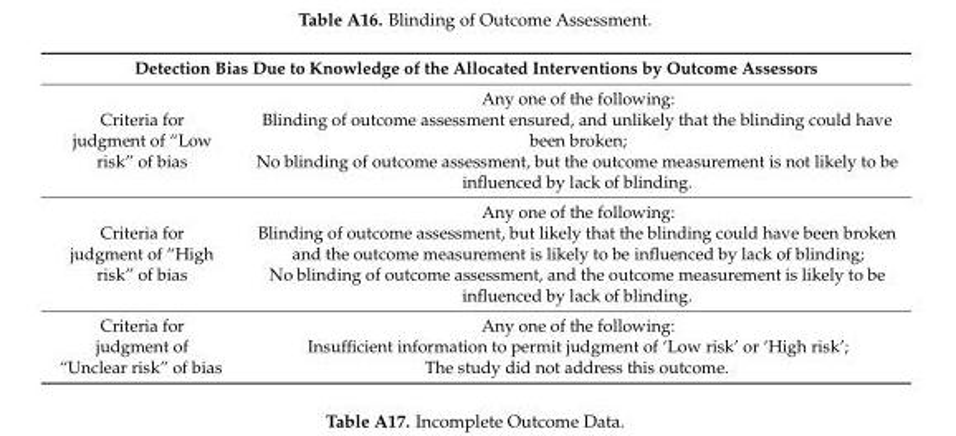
<table><thead><tr><td colspan="2">Detection Bias Due to Knowledge of the Allocated Interventions by Outcome Assessors</td></tr><tr><td>Criteria for judgment of “Low risk” of bias</td><td>Any one of the following: Blinding of outcome assessment ensured, and unlikely that the blinding could have been broken; No blinding of outcome assessment, but the outcome measurement is not likely to be influenced by lack of blinding.</td></tr></thead><tbody><tr><td>Criteria for judgment of “High risk” of bias</td><td>Any one of the following: Blinding of outcome assessment, but likely that the blinding could have been broken and the outcome measurement is likely to be influenced by lack of blinding; No blinding of outcome assessment, and the outcome measurement is likely to be influenced by lack of blinding.</td></tr><tr><td>Criteria for judgment of “Unclear risk” of bias</td><td>Any one of the following: Insufficient information to permit judgment of ‘Low risk’ or ‘High risk’; The study did not address this outcome.</td></tr></tbody></table>